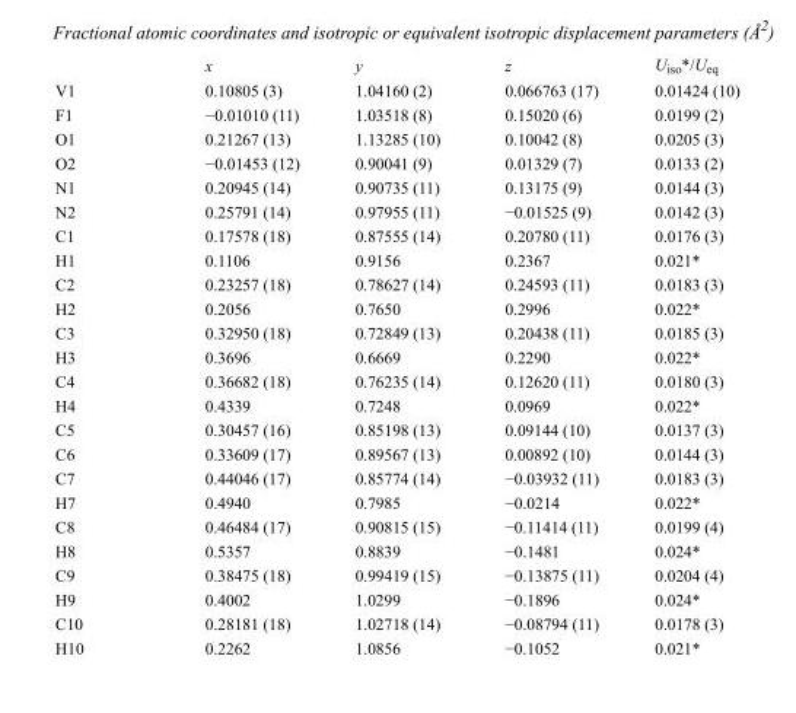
<table><thead><tr><td></td><td>x</td><td>y</td><td>z</td><td>U<sub>iso</sub>*/U<sub>eq</sub></td></tr></thead><tbody><tr><td>V1</td><td>0.10805 (3)</td><td>1.04160 (2)</td><td>0.066763 (17)</td><td>0.01424 (10)</td></tr><tr><td>F1</td><td>−0.01010 (11)</td><td>1.03518 (8)</td><td>0.15020 (6)</td><td>0.0199 (2)</td></tr><tr><td>O1</td><td>0.21267 (13)</td><td>1.13285 (10)</td><td>0.10042 (8)</td><td>0.0205 (3)</td></tr><tr><td>O2</td><td>−0.01453 (12)</td><td>0.90041 (9)</td><td>0.01329 (7)</td><td>0.0133 (2)</td></tr><tr><td>N1</td><td>0.20945 (14)</td><td>0.90735 (11)</td><td>0.13175 (9)</td><td>0.0144 (3)</td></tr><tr><td>N2</td><td>0.25791 (14)</td><td>0.97955 (11)</td><td>−0.01525 (9)</td><td>0.0142 (3)</td></tr><tr><td>C1</td><td>0.17578 (18)</td><td>0.87555 (14)</td><td>0.20780 (11)</td><td>0.0176 (3)</td></tr><tr><td>H1</td><td>0.1106</td><td>0.9156</td><td>0.2367</td><td>0.021*</td></tr><tr><td>C2</td><td>0.23257 (18)</td><td>0.78627 (14)</td><td>0.24593 (11)</td><td>0.0183 (3)</td></tr><tr><td>H2</td><td>0.2056</td><td>0.7650</td><td>0.2996</td><td>0.022*</td></tr><tr><td>C3</td><td>0.32950 (18)</td><td>0.72849 (13)</td><td>0.20438 (11)</td><td>0.0185 (3)</td></tr><tr><td>H3</td><td>0.3696</td><td>0.6669</td><td>0.2290</td><td>0.022*</td></tr><tr><td>C4</td><td>0.36682 (18)</td><td>0.76235 (14)</td><td>0.12620 (11)</td><td>0.0180 (3)</td></tr><tr><td>H4</td><td>0.4339</td><td>0.7248</td><td>0.0969</td><td>0.022*</td></tr><tr><td>C5</td><td>0.30457 (16)</td><td>0.85198 (13)</td><td>0.09144 (10)</td><td>0.0137 (3)</td></tr><tr><td>C6</td><td>0.33609 (17)</td><td>0.89567 (13)</td><td>0.00892 (10)</td><td>0.0144 (3)</td></tr><tr><td>C7</td><td>0.44046 (17)</td><td>0.85774 (14)</td><td>−0.03932 (11)</td><td>0.0183 (3)</td></tr><tr><td>H7</td><td>0.4940</td><td>0.7985</td><td>−0.0214</td><td>0.022*</td></tr><tr><td>C8</td><td>0.46484 (17)</td><td>0.90815 (15)</td><td>−0.11414 (11)</td><td>0.0199 (4)</td></tr><tr><td>H8</td><td>0.5357</td><td>0.8839</td><td>−0.1481</td><td>0.024*</td></tr><tr><td>C9</td><td>0.38475 (18)</td><td>0.99419 (15)</td><td>−0.13875 (11)</td><td>0.0204 (4)</td></tr><tr><td>H9</td><td>0.4002</td><td>1.0299</td><td>−0.1896</td><td>0.024*</td></tr><tr><td>C10</td><td>0.28181 (18)</td><td>1.02718 (14)</td><td>−0.08794 (11)</td><td>0.0178 (3)</td></tr><tr><td>H10</td><td>0.2262</td><td>1.0856</td><td>−0.1052</td><td>0.021*</td></tr></tbody></table>